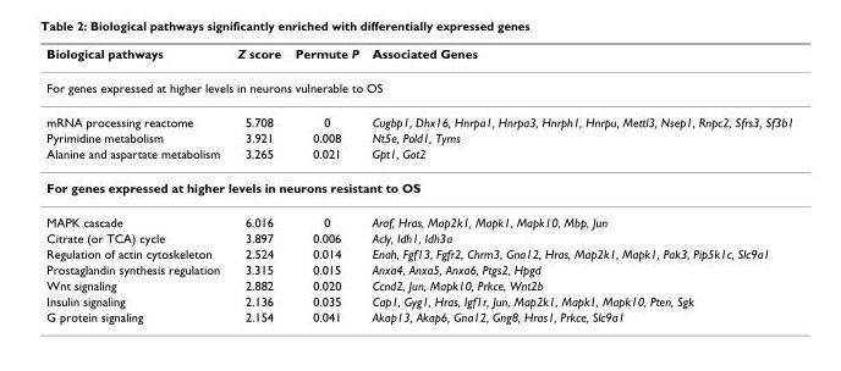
<table><thead><tr><td>Biological pathways</td><td>Z score</td><td>Permute P</td><td>Associated Genes</td></tr></thead><tbody><tr><td colspan="4">For genes expressed at higher levels in neurons vulnerable to OS</td></tr><tr><td>mRNA processing reactome</td><td>5.708</td><td>0</td><td>Cugbp1, Dhx16, Hnrpa1, Hnrpa3, Hnrph1, Hnrpu, Mettl3, Nsep1, Rnpc2, Sfrs3, Sf3b1</td></tr><tr><td>Pyrimidine metabolism</td><td>3.921</td><td>0.008</td><td>Nt5e, Pold1, Tyms</td></tr><tr><td>Alanine and aspartate metabolism</td><td>3.265</td><td>0.021</td><td>Gpt1, Got2</td></tr><tr><td colspan="4">For genes expressed at higher levels in neurons resistant to OS</td></tr><tr><td>MAPK cascade</td><td>6.016</td><td>0</td><td>Araf, Hras, Map2k1, Mapk1, Mapk10, Mbp, Jun</td></tr><tr><td>Citrate (or TCA) cycle</td><td>3.897</td><td>0.006</td><td>Acly, Idh1, Idh3a</td></tr><tr><td>Regulation of actin cytoskeleton</td><td>2.524</td><td>0.014</td><td>Enah, Fgf13, Fgfr2, Chrm3, Gna12, Hras, Map2k1, Mapk1, Pak3, Pip5k1c, Slc9a1</td></tr><tr><td>Prostaglandin synthesis regulation</td><td>3.315</td><td>0.015</td><td>Anxa4, Anxa5, Anxa6, Ptgs2, Hpgd</td></tr><tr><td>Wnt signaling</td><td>2.882</td><td>0.020</td><td>Ccnd2, Jun, Mapk10, Prkce, Wnt2b</td></tr><tr><td>Insulin signaling</td><td>2.136</td><td>0.035</td><td>Cap1, Gyg1, Hras, Igf1r, Jun, Map2k1, Mapk1, Mapk10, Pten, Sgk</td></tr><tr><td>G protein signaling</td><td>2.154</td><td>0.041</td><td>Akap13, Akap6, Gna12, Gng8, Hras1, Prkce, Slc9a1</td></tr></tbody></table>